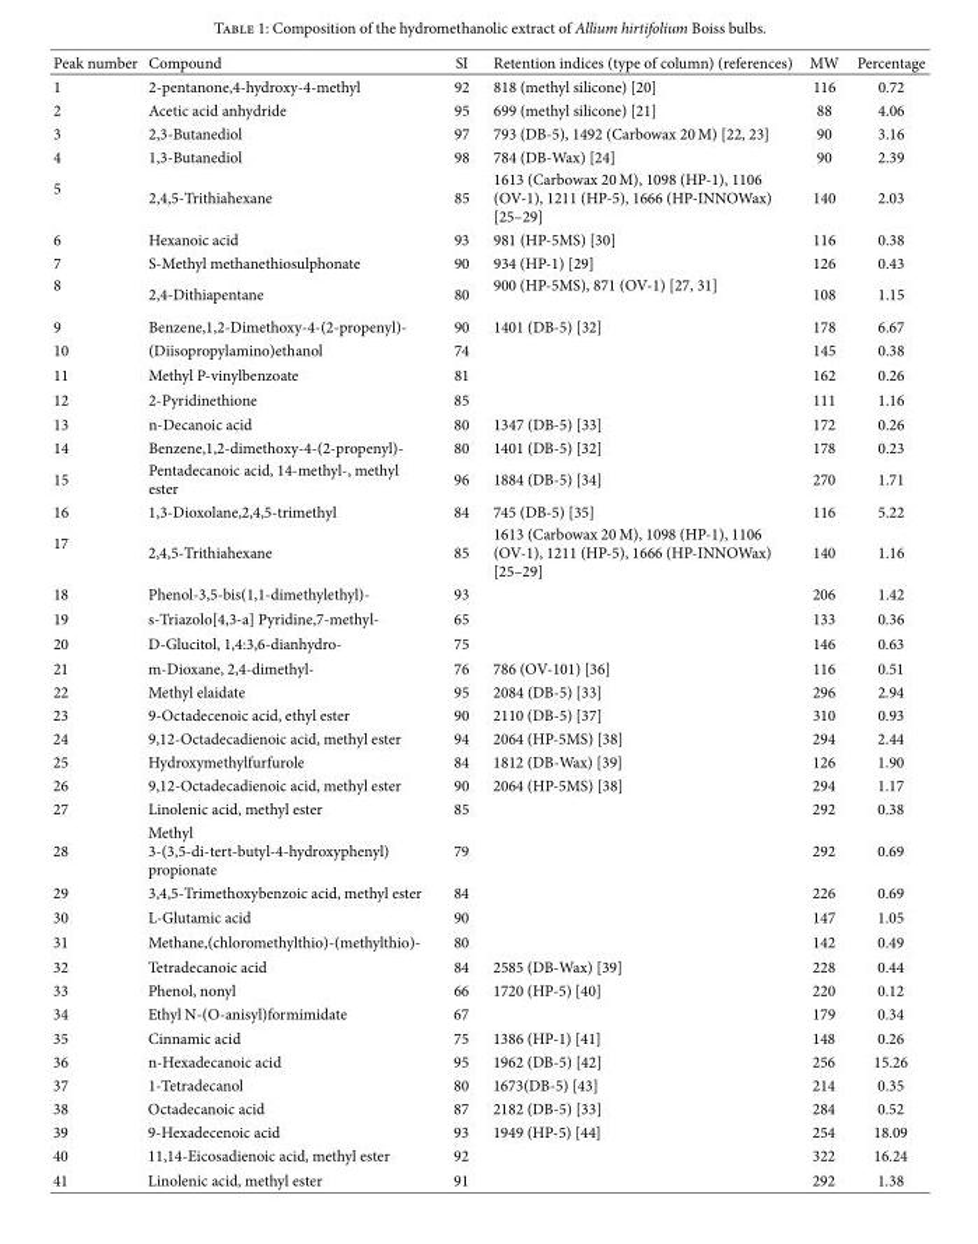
<table><thead><tr><td>Peak number</td><td>Compound</td><td>SI</td><td>Retention indices (type of column) (references)</td><td>MW</td><td>Percentage</td></tr></thead><tbody><tr><td>1</td><td>2-pentanone,4-hydroxy-4-methyl</td><td>92</td><td>818 (methyl silicone) [20]</td><td>116</td><td>0.72</td></tr><tr><td>2</td><td>Acetic acid anhydride</td><td>95</td><td>699 (methyl silicone) [21]</td><td>88</td><td>4.06</td></tr><tr><td>3</td><td>2,3-Butanediol</td><td>97</td><td>793 (DB-5), 1492 (Carbowax 20 M) [22, 23]</td><td>90</td><td>3.16</td></tr><tr><td>4</td><td>1,3-Butanediol</td><td>98</td><td>784 (DB-Wax) [24]</td><td>90</td><td>2.39</td></tr><tr><td>5</td><td>2,4,5-Trithiahexane</td><td>85</td><td>1613 (Carbowax 20 M), 1098 (HP-1), 1106 (OV-1), 1211 (HP-5), 1666 (HP-INNOWax) [25–29]</td><td>140</td><td>2.03</td></tr><tr><td>6</td><td>Hexanoic acid</td><td>93</td><td>981 (HP-5MS) [30]</td><td>116</td><td>0.38</td></tr><tr><td>7</td><td>S-Methyl methanethiosulphonate</td><td>90</td><td>934 (HP-1) [29]</td><td>126</td><td>0.43</td></tr><tr><td>8</td><td>2,4-Dithiapentane</td><td>80</td><td>900 (HP-5MS), 871 (OV-1) [27, 31]</td><td>108</td><td>1.15</td></tr><tr><td>9</td><td>Benzene,1,2-Dimethoxy-4-(2-propenyl)-</td><td>90</td><td>1401 (DB-5) [32]</td><td>178</td><td>6.67</td></tr><tr><td>10</td><td>(Diisopropylamino)ethanol</td><td>74</td><td></td><td>145</td><td>0.38</td></tr><tr><td>11</td><td>Methyl P-vinylbenzoate</td><td>81</td><td></td><td>162</td><td>0.26</td></tr><tr><td>12</td><td>2-Pyridinethione</td><td>85</td><td></td><td>111</td><td>1.16</td></tr><tr><td>13</td><td>n-Decanoic acid</td><td>80</td><td>1347 (DB-5) [33]</td><td>172</td><td>0.26</td></tr><tr><td>14</td><td>Benzene,1,2-dimethoxy-4-(2-propenyl)-</td><td>80</td><td>1401 (DB-5) [32]</td><td>178</td><td>0.23</td></tr><tr><td>15</td><td>Pentadecanoic acid, 14-methyl-, methyl ester</td><td>96</td><td>1884 (DB-5) [34]</td><td>270</td><td>1.71</td></tr><tr><td>16</td><td>1,3-Dioxolane,2,4,5-trimethyl</td><td>84</td><td>745 (DB-5) [35]</td><td>116</td><td>5.22</td></tr><tr><td>17</td><td>2,4,5-Trithiahexane</td><td>85</td><td>1613 (Carbowax 20 M), 1098 (HP-1), 1106 (OV-1), 1211 (HP-5), 1666 (HP-INNOWax) [25–29]</td><td>140</td><td>1.16</td></tr><tr><td>18</td><td>Phenol-3,5-bis(1,1-dimethylethyl)-</td><td>93</td><td></td><td>206</td><td>1.42</td></tr><tr><td>19</td><td>s-Triazolo[4,3-a] Pyridine,7-methyl-</td><td>65</td><td></td><td>133</td><td>0.36</td></tr><tr><td>20</td><td>D-Glucitol, 1,4:3,6-dianhydro-</td><td>75</td><td></td><td>146</td><td>0.63</td></tr><tr><td>21</td><td>m-Dioxane, 2,4-dimethyl-</td><td>76</td><td>786 (OV-101) [36]</td><td>116</td><td>0.51</td></tr><tr><td>22</td><td>Methyl elaidate</td><td>95</td><td>2084 (DB-5) [33]</td><td>296</td><td>2.94</td></tr><tr><td>23</td><td>9-Octadecenoic acid, ethyl ester</td><td>90</td><td>2110 (DB-5) [37]</td><td>310</td><td>0.93</td></tr><tr><td>24</td><td>9,12-Octadecadienoic acid, methyl ester</td><td>94</td><td>2064 (HP-5MS) [38]</td><td>294</td><td>2.44</td></tr><tr><td>25</td><td>Hydroxymethylfurfurole</td><td>84</td><td>1812 (DB-Wax) [39]</td><td>126</td><td>1.90</td></tr><tr><td>26</td><td>9,12-Octadecadienoic acid, methyl ester</td><td>90</td><td>2064 (HP-5MS) [38]</td><td>294</td><td>1.17</td></tr><tr><td>27</td><td>Linolenic acid, methyl ester</td><td>85</td><td></td><td>292</td><td>0.38</td></tr><tr><td>28</td><td>Methyl 3-(3,5-di-tert-butyl-4-hydroxyphenyl) propionate</td><td>79</td><td></td><td>292</td><td>0.69</td></tr><tr><td>29</td><td>3,4,5-Trimethoxybenzoic acid, methyl ester</td><td>84</td><td></td><td>226</td><td>0.69</td></tr><tr><td>30</td><td>L-Glutamic acid</td><td>90</td><td></td><td>147</td><td>1.05</td></tr><tr><td>31</td><td>Methane,(chloromethylthio)-(methylthio)-</td><td>80</td><td></td><td>142</td><td>0.49</td></tr><tr><td>32</td><td>Tetradecanoic acid</td><td>84</td><td>2585 (DB-Wax) [39]</td><td>228</td><td>0.44</td></tr><tr><td>33</td><td>Phenol, nonyl</td><td>66</td><td>1720 (HP-5) [40]</td><td>220</td><td>0.12</td></tr><tr><td>34</td><td>Ethyl N-(O-anisyl)formimidate</td><td>67</td><td></td><td>179</td><td>0.34</td></tr><tr><td>35</td><td>Cinnamic acid</td><td>75</td><td>1386 (HP-1) [41]</td><td>148</td><td>0.26</td></tr><tr><td>36</td><td>n-Hexadecanoic acid</td><td>95</td><td>1962 (DB-5) [42]</td><td>256</td><td>15.26</td></tr><tr><td>37</td><td>1-Tetradecanol</td><td>80</td><td>1673(DB-5) [43]</td><td>214</td><td>0.35</td></tr><tr><td>38</td><td>Octadecanoic acid</td><td>87</td><td>2182 (DB-5) [33]</td><td>284</td><td>0.52</td></tr><tr><td>39</td><td>9-Hexadecenoic acid</td><td>93</td><td>1949 (HP-5) [44]</td><td>254</td><td>18.09</td></tr><tr><td>40</td><td>11,14-Eicosadienoic acid, methyl ester</td><td>92</td><td></td><td>322</td><td>16.24</td></tr><tr><td>41</td><td>Linolenic acid, methyl ester</td><td>91</td><td></td><td>292</td><td>1.38</td></tr></tbody></table>